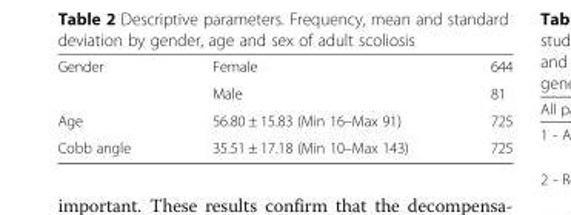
<table><tbody><tr><td rowspan="2">Gender</td><td>Female</td><td>644</td></tr><tr><td>Male</td><td>81</td></tr><tr><td>Age</td><td>56.80 ± 15.83 (Min 16–Max 91)</td><td>725</td></tr><tr><td>Cobb angle</td><td>35.51 ± 17.18 (Min 10–Max 143)</td><td>725</td></tr></tbody></table>